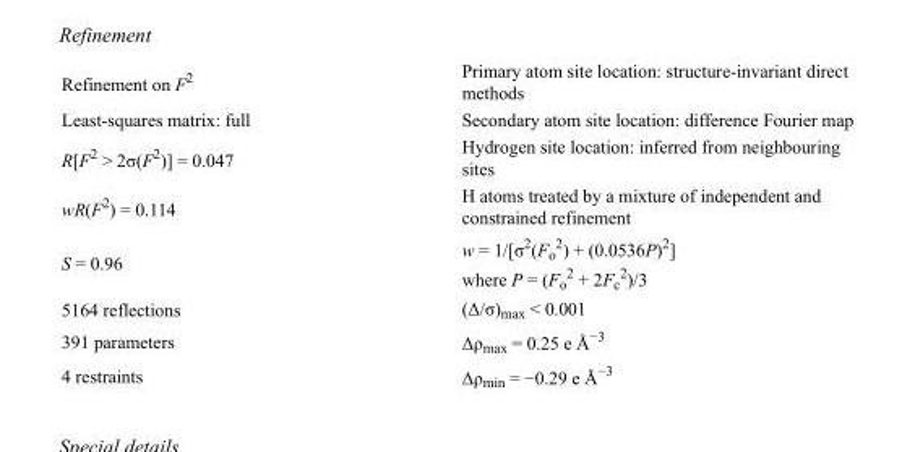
<table><tbody><tr><td>Refinement on F<sup>2</sup></td><td>Primary atom site location: structure-invariant direct methods</td></tr><tr><td>Least-squares matrix: full</td><td>Secondary atom site location: difference Fourier map</td></tr><tr><td>R[F<sup>2</sup> &gt; 2σ(F<sup>2</sup>)] = 0.047</td><td>Hydrogen site location: inferred from neighbouring sites</td></tr><tr><td>wR(F<sup>2</sup>) = 0.114</td><td>H atoms treated by a mixture of independent and constrained refinement</td></tr><tr><td>S = 0.96</td><td>w = 1/[σ<sup>2</sup>(F<sub>o</sub> <sup>2</sup>) + (0.0536P)<sup>2</sup>] where P = (F<sub>o</sub> <sup>2</sup> + 2F<sub>c</sub> <sup>2</sup>)/3</td></tr><tr><td>5164 reflections</td><td>(Δ/σ)<sub>max</sub> &lt; 0.001</td></tr><tr><td>391 parameters</td><td>Δρ<sub>max</sub> = 0.25 e Å<sup>−3</sup></td></tr><tr><td>4 restraints</td><td>Δρ<sub>min</sub> = −0.29 e Å<sup>−3</sup></td></tr></tbody></table>